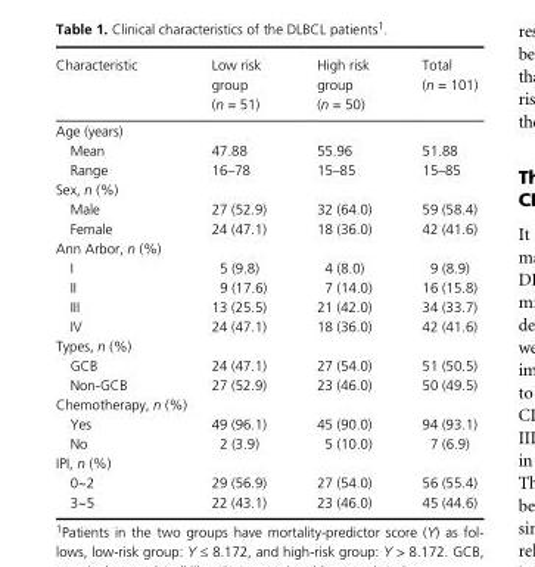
<table><thead><tr><td>Characteristic</td><td>Low risk group (n = 51)</td><td>High risk group (n = 50)</td><td>Total (n = 101)</td></tr></thead><tbody><tr><td colspan="4">Age (years)</td></tr><tr><td>Mean</td><td>47.88</td><td>55.96</td><td>51.88</td></tr><tr><td>Range</td><td>16–78</td><td>15–85</td><td>15–85</td></tr><tr><td colspan="4">Sex, n (%)</td></tr><tr><td>Male</td><td>27 (52.9)</td><td>32 (64.0)</td><td>59 (58.4)</td></tr><tr><td>Female</td><td>24 (47.1)</td><td>18 (36.0)</td><td>42 (41.6)</td></tr><tr><td colspan="4">Ann Arbor, n (%)</td></tr><tr><td>I</td><td>5 (9.8)</td><td>4 (8.0)</td><td>9 (8.9)</td></tr><tr><td>II</td><td>9 (17.6)</td><td>7 (14.0)</td><td>16 (15.8)</td></tr><tr><td>III</td><td>13 (25.5)</td><td>21 (42.0)</td><td>34 (33.7)</td></tr><tr><td>IV</td><td>24 (47.1)</td><td>18 (36.0)</td><td>42 (41.6)</td></tr><tr><td colspan="4">Types, n (%)</td></tr><tr><td>GCB</td><td>24 (47.1)</td><td>27 (54.0)</td><td>51 (50.5)</td></tr><tr><td>Non- GCB</td><td>27 (52.9)</td><td>23 (46.0)</td><td>50 (49.5)</td></tr><tr><td colspan="4">Chemotherapy, n (%)</td></tr><tr><td>Yes</td><td>49 (96.1)</td><td>45 (90.0)</td><td>94 (93.1)</td></tr><tr><td>No</td><td>2 (3.9)</td><td>5 (10.0)</td><td>7 (6.9)</td></tr><tr><td colspan="4">IPI, n (%)</td></tr><tr><td>0~2</td><td>29 (56.9)</td><td>27 (54.0)</td><td>56 (55.4)</td></tr><tr><td>3~5</td><td>22 (43.1)</td><td>23 (46.0)</td><td>45 (44.6)</td></tr></tbody></table>